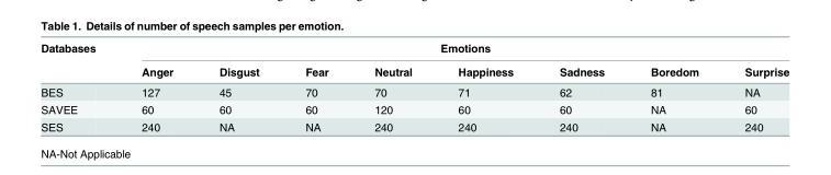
<table><thead><tr><td rowspan="2">Databases</td><td colspan="8">Emotions</td></tr><tr><td>Anger</td><td>Disgust</td><td>Fear</td><td>Neutral</td><td>Happiness</td><td>Sadness</td><td>Boredom</td><td>Surprise</td></tr></thead><tbody><tr><td>BES</td><td>127</td><td>45</td><td>70</td><td>70</td><td>71</td><td>62</td><td>81</td><td>NA</td></tr><tr><td>SAVEE</td><td>60</td><td>60</td><td>60</td><td>120</td><td>60</td><td>60</td><td>NA</td><td>60</td></tr><tr><td>SES</td><td>240</td><td>NA</td><td>NA</td><td>240</td><td>240</td><td>240</td><td>NA</td><td>240</td></tr></tbody></table>